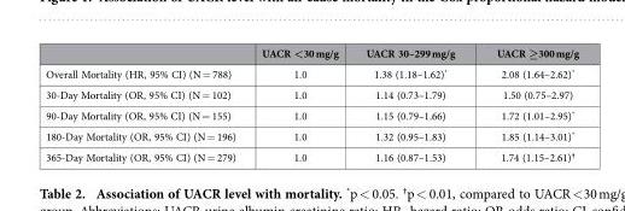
<table><thead><tr><td></td><td>UACR &lt;30 mg/g</td><td>UACR 30–299 mg/g</td><td>UACR ≥300 mg/g</td></tr></thead><tbody><tr><td>Overall Mortality (HR, 95% CI) (N = 788)</td><td>1.0</td><td>1.38 (1.18–1.62)*</td><td>2.08 (1.64–2.62)*</td></tr><tr><td>30-Day Mortality (OR, 95% CI) (N = 102)</td><td>1.0</td><td>1.14 (0.73–1.79)</td><td>1.50 (0.75–2.97)</td></tr><tr><td>90-Day Mortality (OR, 95% CI) (N = 155)</td><td>1.0</td><td>1.15 (0.79–1.66)</td><td>1.72 (1.01–2.95)*</td></tr><tr><td>180-Day Mortality (OR, 95% CI) (N = 196)</td><td>1.0</td><td>1.32 (0.95–1.83)</td><td>1.85 (1.14–3.01)*</td></tr><tr><td>365-Day Mortality (OR, 95% CI) (N = 279)</td><td>1.0</td><td>1.16 (0.87–1.53)</td><td>1.74 (1.15–2.61)†</td></tr></tbody></table>